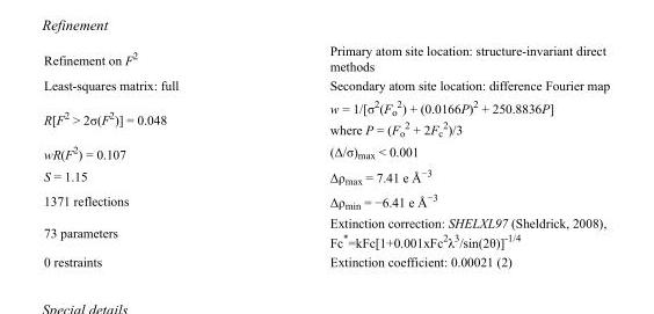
<table><tbody><tr><td>Refinement on F<sup>2</sup></td><td>Primary atom site location: structure-invariant direct methods</td></tr><tr><td>Least-squares matrix: full</td><td>Secondary atom site location: difference Fourier map</td></tr><tr><td>R[F<sup>2</sup> &gt; 2σ(F<sup>2</sup>)] = 0.048</td><td>w = 1/[σ<sup>2</sup>(F<sub>o</sub> <sup>2</sup>) + (0.0166P)<sup>2</sup> + 250.8836P] where P = (F<sub>o</sub> <sup>2</sup> + 2F<sub>c</sub> <sup>2</sup>)/3</td></tr><tr><td>wR(F<sup>2</sup>) = 0.107</td><td>(Δ/σ)<sub>max</sub> &lt; 0.001</td></tr><tr><td>S = 1.15</td><td>Δρ<sub>max</sub> = 7.41 e Å<sup>−3</sup></td></tr><tr><td>1371 reflections</td><td>Δρ<sub>min</sub> = −6.41 e Å<sup>−3</sup></td></tr><tr><td>73 parameters</td><td>Extinction correction: SHELXL97 (Sheldrick, 2008), Fc*=kFc[1+0.001xFc<sup>2</sup>λ<sup>3</sup>/sin(2θ)]<sup>-1/4</sup></td></tr><tr><td>0 restraints</td><td>Extinction coefficient: 0.00021 (2)</td></tr></tbody></table>